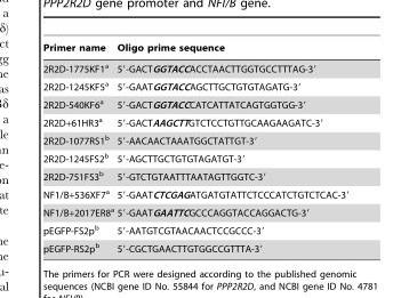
<table><thead><tr><td>Primer name</td><td>Oligo prime sequence</td></tr></thead><tbody><tr><td>2R2D-1775KF1<sup>a</sup></td><td>5′-GACTGGTACCACCTAACTTGGTGCCTTTAG-3′</td></tr><tr><td>2R2D-1245KF5<sup>a</sup></td><td>5′-GAATGGTACCAGCTTGCTGTGTAGATG-3′</td></tr><tr><td>2R2D-540KF6<sup>a</sup></td><td>5′-GACTGGTACCCATCATTATCAGTGGTGG-3′</td></tr><tr><td>2R2D+61HR3<sup>a</sup></td><td>5′-GACTAAGCTTGTCTCCTGTTGCAAGAAGATC-3′</td></tr><tr><td>2R2D-1077RS1<sup>b</sup></td><td>5′-AACAACTAAATGGCTATTGT-3′</td></tr><tr><td>2R2D-1245FS2<sup>b</sup></td><td>5′-AGCTTGCTGTGTAGATGT-3′</td></tr><tr><td>2R2D-751FS3<sup>b</sup></td><td>5′-GTCTGTAATTTAATAGTTGGTC-3′</td></tr><tr><td>NF1/B+536XF7<sup>a</sup></td><td>5′-GAATCTCGAGATGATGTATTCTCCCATCTGTCTCAC-3′</td></tr><tr><td>NF1/B+2017ER8<sup>a</sup></td><td>5′-GAATGAATTCGCCCAGGTACCAGGACTG-3′</td></tr><tr><td>pEGFP-FS2p<sup>b</sup></td><td>5′-AATGTCGTAACAACTCCGCCC-3′</td></tr><tr><td>pEGFP-RS2p<sup>b</sup></td><td>5′-CGCTGAACTTGTGGCCGTTTA-3′</td></tr></tbody></table>